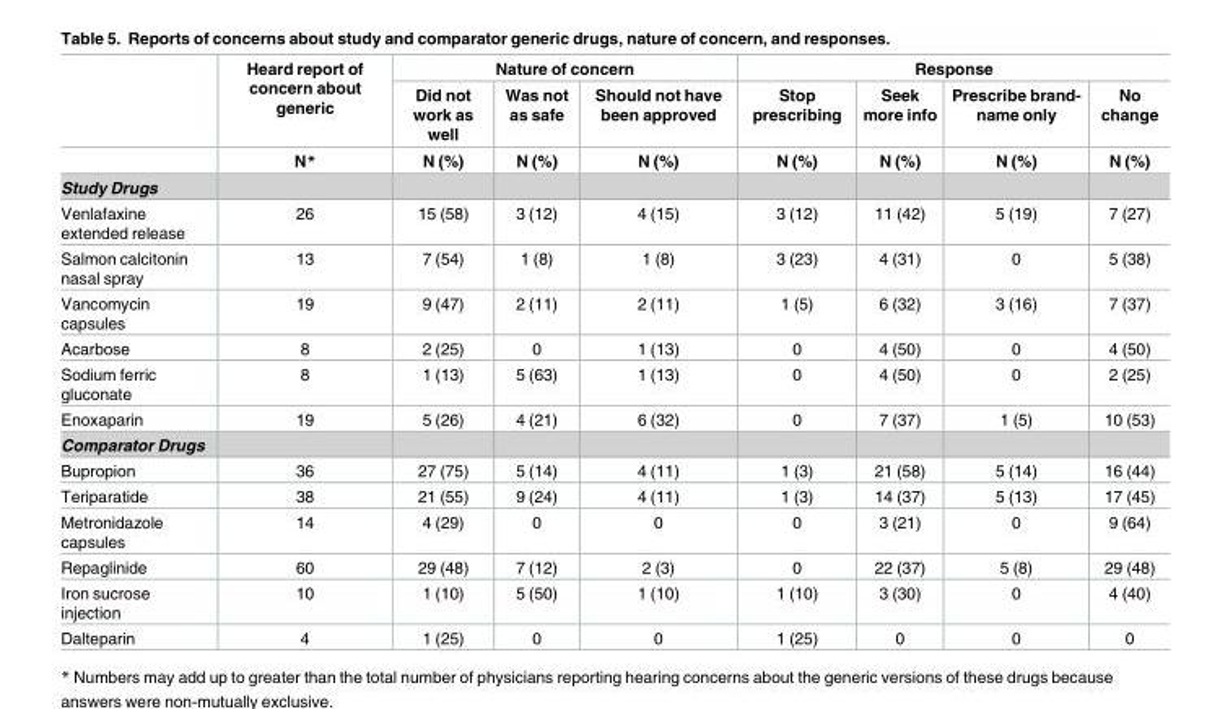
<table><thead><tr><td rowspan="3"></td><td rowspan="3">Heard report of concern about generic N*</td><td colspan="3">Nature of concern</td><td colspan="4">Response</td></tr><tr><td rowspan="2">Did not work as well N (%)</td><td rowspan="2">Was not as safe N (%)</td><td rowspan="2">Should not have been approved N (%)</td><td rowspan="2">Stop prescribing N (%)</td><td rowspan="2">Seek more info N (%)</td><td rowspan="2">Prescribe brand- name only N (%)</td><td rowspan="2">No change N (%)</td></tr><tr></tr></thead><tbody><tr><td colspan="9">Study Drugs</td></tr><tr><td>Venlafaxine extended release</td><td>26</td><td>15 (58)</td><td>3 (12)</td><td>4 (15)</td><td>3 (12)</td><td>11 (42)</td><td>5 (19)</td><td>7 (27)</td></tr><tr><td>Salmon calcitonin nasal spray</td><td>13</td><td>7 (54)</td><td>1 (8)</td><td>1 (8)</td><td>3 (23)</td><td>4 (31)</td><td>0</td><td>5 (38)</td></tr><tr><td>Vancomycin capsules</td><td>19</td><td>9 (47)</td><td>2 (11)</td><td>2 (11)</td><td>1 (5)</td><td>6 (32)</td><td>3 (16)</td><td>7 (37)</td></tr><tr><td>Acarbose</td><td>8</td><td>2 (25)</td><td>0</td><td>1 (13)</td><td>0</td><td>4 (50)</td><td>0</td><td>4 (50)</td></tr><tr><td>Sodium ferric gluconate</td><td>8</td><td>1 (13)</td><td>5 (63)</td><td>1 (13)</td><td>0</td><td>4 (50)</td><td>0</td><td>2 (25)</td></tr><tr><td>Enoxaparin</td><td>19</td><td>5 (26)</td><td>4 (21)</td><td>6 (32)</td><td>0</td><td>7 (37)</td><td>1 (5)</td><td>10 (53)</td></tr><tr><td colspan="9">Comparator Drugs</td></tr><tr><td>Bupropion</td><td>36</td><td>27 (75)</td><td>5 (14)</td><td>4 (11)</td><td>1 (3)</td><td>21 (58)</td><td>5 (14)</td><td>16 (44)</td></tr><tr><td>Teriparatide</td><td>38</td><td>21 (55)</td><td>9 (24)</td><td>4 (11)</td><td>1 (3)</td><td>14 (37)</td><td>5 (13)</td><td>17 (45)</td></tr><tr><td>Metronidazole capsules</td><td>14</td><td>4 (29)</td><td>0</td><td>0</td><td>0</td><td>3 (21)</td><td>0</td><td>9 (64)</td></tr><tr><td>Repaglinide</td><td>60</td><td>29 (48)</td><td>7 (12)</td><td>2 (3)</td><td>0</td><td>22 (37)</td><td>5 (8)</td><td>29 (48)</td></tr><tr><td>Iron sucrose injection</td><td>10</td><td>1 (10)</td><td>5 (50)</td><td>1 (10)</td><td>1 (10)</td><td>3 (30)</td><td>0</td><td>4 (40)</td></tr><tr><td>Dalteparin</td><td>4</td><td>1 (25)</td><td>0</td><td>0</td><td>1 (25)</td><td>0</td><td>0</td><td>0</td></tr></tbody></table>